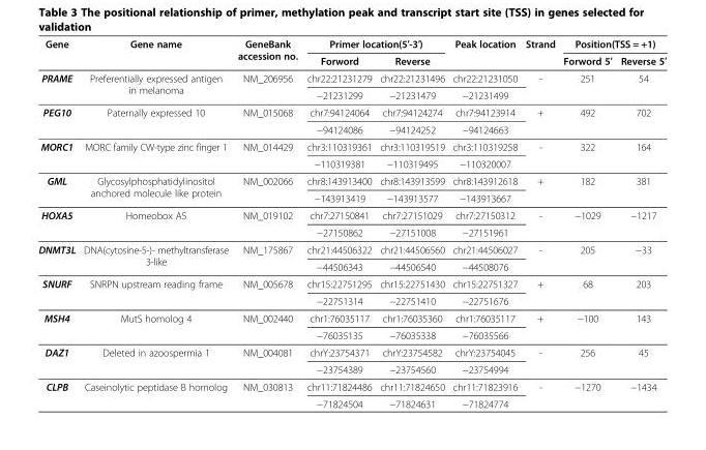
<table><thead><tr><td rowspan="2">Gene</td><td rowspan="2">Gene name</td><td rowspan="2">GeneBank accession no.</td><td colspan="2">Primer location(5′-3′)</td><td rowspan="2">Peak location</td><td rowspan="2">Strand</td><td colspan="2">Position(TSS = +1)</td></tr><tr><td>Forword</td><td>Reverse</td><td>Forword 5′</td><td>Reverse 5′</td></tr></thead><tbody><tr><td rowspan="2">PRAME</td><td rowspan="2">Preferentially expressed antigen in melanoma</td><td rowspan="2">NM_206956</td><td>chr22:21231279</td><td>chr22:21231496</td><td>chr22:21231050</td><td rowspan="2">-</td><td rowspan="2">251</td><td rowspan="2">54</td></tr><tr><td>−21231299</td><td>−21231479</td><td>−21231499</td></tr><tr><td rowspan="2">PEG10</td><td rowspan="2">Paternally expressed 10</td><td rowspan="2">NM_015068</td><td>chr7:94124064</td><td>chr7:94124274</td><td>chr7:94123914</td><td rowspan="2">+</td><td rowspan="2">492</td><td rowspan="2">702</td></tr><tr><td>−94124086</td><td>−94124252</td><td>−94124663</td></tr><tr><td rowspan="2">MORC1</td><td rowspan="2">MORC family CW-type zinc finger 1</td><td rowspan="2">NM_014429</td><td>chr3:110319361</td><td>chr3:110319519</td><td>chr3:110319258</td><td rowspan="2">-</td><td rowspan="2">322</td><td rowspan="2">164</td></tr><tr><td>−110319381</td><td>−110319495</td><td>−110320007</td></tr><tr><td rowspan="2">GML</td><td rowspan="2">Glycosylphosphatidylinositol anchored molecule like protein</td><td rowspan="2">NM_002066</td><td>chr8:143913400</td><td>chr8:143913599</td><td>chr8:143912618</td><td rowspan="2">+</td><td rowspan="2">182</td><td rowspan="2">381</td></tr><tr><td>−143913419</td><td>−143913577</td><td>−143913667</td></tr><tr><td rowspan="2">HOXA5</td><td rowspan="2">Homeobox A5</td><td rowspan="2">NM_019102</td><td>chr7:27150841</td><td>chr7:27151029</td><td>chr7:27150312</td><td rowspan="2">-</td><td rowspan="2">−1029</td><td rowspan="2">−1217</td></tr><tr><td>−27150862</td><td>−27151008</td><td>−27151961</td></tr><tr><td rowspan="2">DNMT3L</td><td rowspan="2">DNA(cytosine-5-)- methyltransferase 3-like</td><td rowspan="2">NM_175867</td><td>chr21:44506322</td><td>chr21:44506560</td><td>chr21:44506027</td><td rowspan="2">-</td><td rowspan="2">205</td><td rowspan="2">−33</td></tr><tr><td>−44506343</td><td>−44506540</td><td>−44508076</td></tr><tr><td rowspan="2">SNURF</td><td rowspan="2">SNRPN upstream reading frame</td><td rowspan="2">NM_005678</td><td>chr15:22751295</td><td>chr15:22751430</td><td>chr15:22751327</td><td rowspan="2">+</td><td rowspan="2">68</td><td rowspan="2">203</td></tr><tr><td>−22751314</td><td>−22751410</td><td>−22751676</td></tr><tr><td rowspan="2">MSH4</td><td rowspan="2">MutS homolog 4</td><td rowspan="2">NM_002440</td><td>chr1:76035117</td><td>chr1:76035360</td><td>chr1:76035117</td><td rowspan="2">+</td><td rowspan="2">−100</td><td rowspan="2">143</td></tr><tr><td>−76035135</td><td>−76035338</td><td>−76035566</td></tr><tr><td rowspan="2">DAZ1</td><td rowspan="2">Deleted in azoospermia 1</td><td rowspan="2">NM_004081</td><td>chrY:23754371</td><td>chrY:23754582</td><td>chrY:23754045</td><td rowspan="2">-</td><td rowspan="2">256</td><td rowspan="2">45</td></tr><tr><td>−23754389</td><td>−23754560</td><td>−23754994</td></tr><tr><td rowspan="2">CLPB</td><td rowspan="2">Caseinolytic peptidase B homolog</td><td rowspan="2">NM_030813</td><td>chr11:71824486</td><td>chr11:71824650</td><td>chr11:71823916</td><td rowspan="2">-</td><td rowspan="2">−1270</td><td rowspan="2">−1434</td></tr><tr><td>−71824504</td><td>−71824631</td><td>−71824774</td></tr></tbody></table>